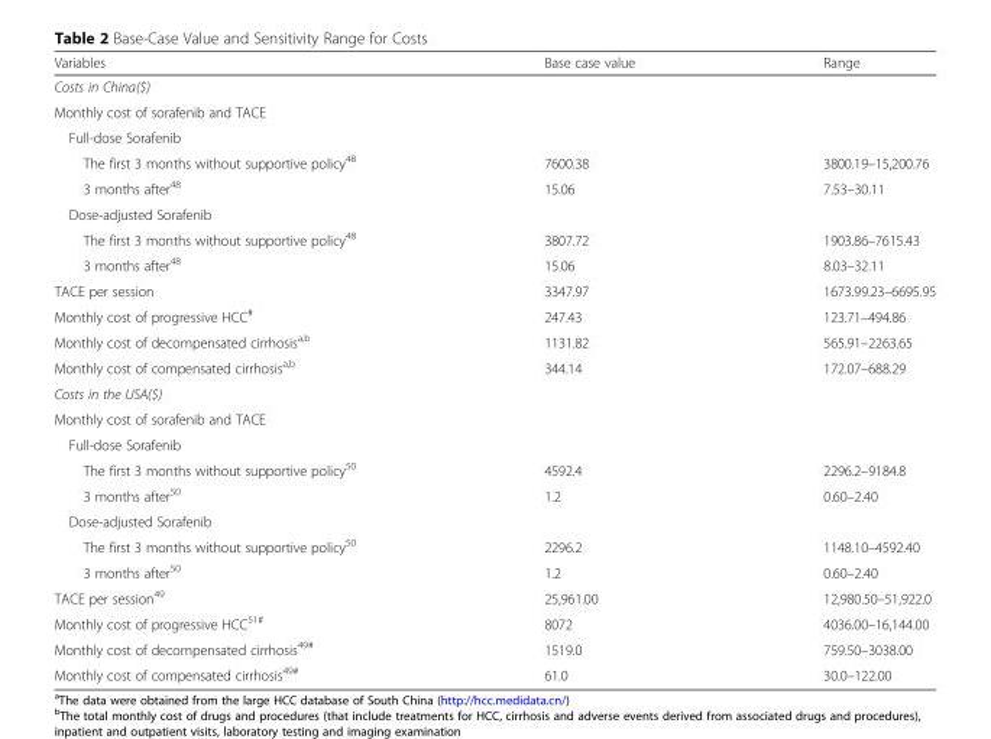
<table><thead><tr><td>Variables</td><td>Base case value</td><td>Range</td></tr></thead><tbody><tr><td colspan="3">Costs in China($)</td></tr><tr><td colspan="3">Monthly cost of sorafenib and TACE</td></tr><tr><td colspan="3">Full-dose Sorafenib</td></tr><tr><td>The first 3 months without supportive policy<sup>48</sup></td><td>7600.38</td><td>3800.19–15,200.76</td></tr><tr><td>3 months after<sup>48</sup></td><td>15.06</td><td>7.53–30.11</td></tr><tr><td colspan="3">Dose-adjusted Sorafenib</td></tr><tr><td>The first 3 months without supportive policy<sup>48</sup></td><td>3807.72</td><td>1903.86–7615.43</td></tr><tr><td>3 months after<sup>48</sup></td><td>15.06</td><td>8.03–32.11</td></tr><tr><td>TACE per session</td><td>3347.97</td><td>1673.99.23–6695.95</td></tr><tr><td>Monthly cost of progressive HCC<sup>#</sup></td><td>247.43</td><td>123.71–494.86</td></tr><tr><td>Monthly cost of decompensated cirrhosis<sup>a,b</sup></td><td>1131.82</td><td>565.91–2263.65</td></tr><tr><td>Monthly cost of compensated cirrhosis<sup>a,b</sup></td><td>344.14</td><td>172.07–688.29</td></tr><tr><td colspan="3">Costs in the USA($)</td></tr><tr><td colspan="3">Monthly cost of sorafenib and TACE</td></tr><tr><td colspan="3">Full-dose Sorafenib</td></tr><tr><td>The first 3 months without supportive policy<sup>50</sup></td><td>4592.4</td><td>2296.2–9184.8</td></tr><tr><td>3 months after<sup>50</sup></td><td>1.2</td><td>0.60–2.40</td></tr><tr><td colspan="3">Dose-adjusted Sorafenib</td></tr><tr><td>The first 3 months without supportive policy<sup>50</sup></td><td>2296.2</td><td>1148.10–4592.40</td></tr><tr><td>3 months after<sup>50</sup></td><td>1.2</td><td>0.60–2.40</td></tr><tr><td>TACE per session<sup>49</sup></td><td>25,961.00</td><td>12,980.50–51,922.0</td></tr><tr><td>Monthly cost of progressive HCC<sup>51#</sup></td><td>8072</td><td>4036.00–16,144.00</td></tr><tr><td>Monthly cost of decompensated cirrhosis<sup>49#</sup></td><td>1519.0</td><td>759.50–3038.00</td></tr><tr><td>Monthly cost of compensated cirrhosis<sup>49#</sup></td><td>61.0</td><td>30.0–122.00</td></tr></tbody></table>